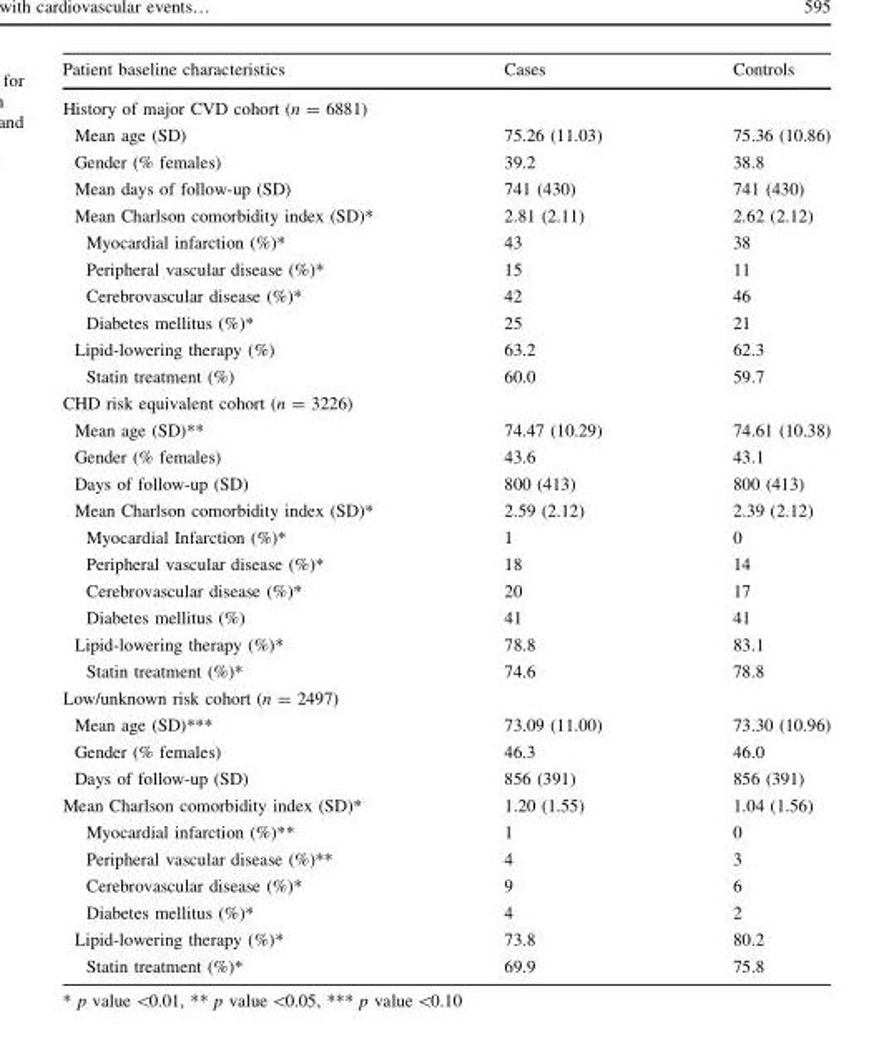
<table><thead><tr><td>Patient baseline characteristics</td><td>Cases</td><td>Controls</td></tr></thead><tbody><tr><td colspan="3">History of major CVD cohort (n = 6881)</td></tr><tr><td>Mean age (SD)</td><td>75.26 (11.03)</td><td>75.36 (10.86)</td></tr><tr><td>Gender (% females)</td><td>39.2</td><td>38.8</td></tr><tr><td>Mean days of follow-up (SD)</td><td>741 (430)</td><td>741 (430)</td></tr><tr><td>Mean Charlson comorbidity index (SD)*</td><td>2.81 (2.11)</td><td>2.62 (2.12)</td></tr><tr><td>Myocardial infarction (%)*</td><td>43</td><td>38</td></tr><tr><td>Peripheral vascular disease (%)*</td><td>15</td><td>11</td></tr><tr><td>Cerebrovascular disease (%)*</td><td>42</td><td>46</td></tr><tr><td>Diabetes mellitus (%)*</td><td>25</td><td>21</td></tr><tr><td>Lipid-lowering therapy (%)</td><td>63.2</td><td>62.3</td></tr><tr><td>Statin treatment (%)</td><td>60.0</td><td>59.7</td></tr><tr><td colspan="3">CHD risk equivalent cohort (n = 3226)</td></tr><tr><td>Mean age (SD)**</td><td>74.47 (10.29)</td><td>74.61 (10.38)</td></tr><tr><td>Gender (% females)</td><td>43.6</td><td>43.1</td></tr><tr><td>Days of follow-up (SD)</td><td>800 (413)</td><td>800 (413)</td></tr><tr><td>Mean Charlson comorbidity index (SD)*</td><td>2.59 (2.12)</td><td>2.39 (2.12)</td></tr><tr><td>Myocardial Infarction (%)*</td><td>1</td><td>0</td></tr><tr><td>Peripheral vascular disease (%)*</td><td>18</td><td>14</td></tr><tr><td>Cerebrovascular disease (%)*</td><td>20</td><td>17</td></tr><tr><td>Diabetes mellitus (%)</td><td>41</td><td>41</td></tr><tr><td>Lipid-lowering therapy (%)*</td><td>78.8</td><td>83.1</td></tr><tr><td>Statin treatment (%)*</td><td>74.6</td><td>78.8</td></tr><tr><td colspan="3">Low/unknown risk cohort (n = 2497)</td></tr><tr><td>Mean age (SD)***</td><td>73.09 (11.00)</td><td>73.30 (10.96)</td></tr><tr><td>Gender (% females)</td><td>46.3</td><td>46.0</td></tr><tr><td>Days of follow-up (SD)</td><td>856 (391)</td><td>856 (391)</td></tr><tr><td>Mean Charlson comorbidity index (SD)*</td><td>1.20 (1.55)</td><td>1.04 (1.56)</td></tr><tr><td>Myocardial infarction (%)**</td><td>1</td><td>0</td></tr><tr><td>Peripheral vascular disease (%)**</td><td>4</td><td>3</td></tr><tr><td>Cerebrovascular disease (%)*</td><td>9</td><td>6</td></tr><tr><td>Diabetes mellitus (%)*</td><td>4</td><td>2</td></tr><tr><td>Lipid-lowering therapy (%)*</td><td>73.8</td><td>80.2</td></tr><tr><td>Statin treatment (%)*</td><td>69.9</td><td>75.8</td></tr></tbody></table>